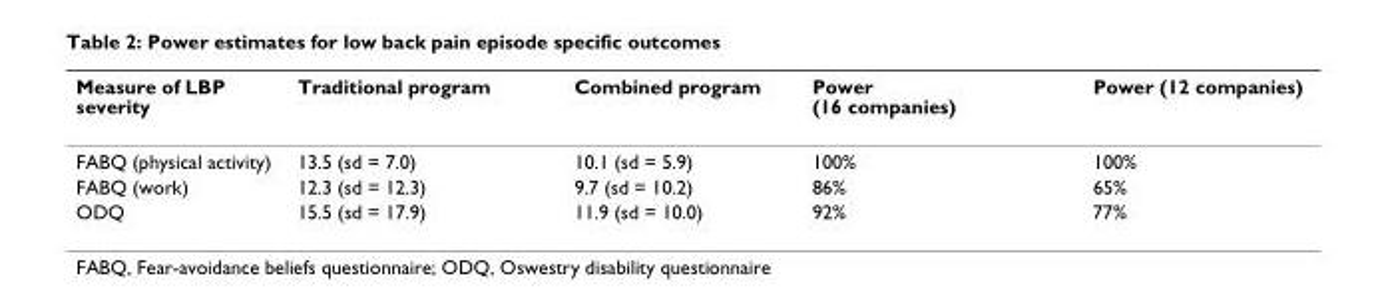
<table><thead><tr><td>Measure of LBP severity</td><td>Traditional program</td><td>Combined program</td><td>Power (16 companies)</td><td>Power (12 companies)</td></tr></thead><tbody><tr><td>FABQ (physical activity)</td><td>13.5 (sd = 7.0)</td><td>10.1 (sd = 5.9)</td><td>100%</td><td>100%</td></tr><tr><td>FABQ (work)</td><td>12.3 (sd = 12.3)</td><td>9.7 (sd = 10.2)</td><td>86%</td><td>65%</td></tr><tr><td>ODQ</td><td>15.5 (sd = 17.9)</td><td>11.9 (sd = 10.0)</td><td>92%</td><td>77%</td></tr></tbody></table>